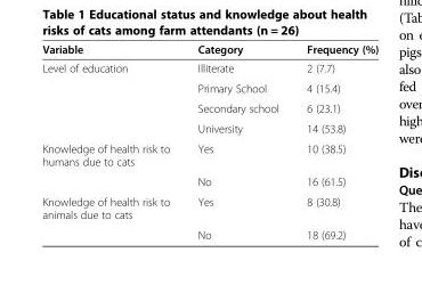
<table><thead><tr><td>Variable</td><td>Category</td><td>Frequency (%)</td></tr></thead><tbody><tr><td rowspan="4">Level of education</td><td>Illiterate</td><td>2 (7.7)</td></tr><tr><td>Primary School</td><td>4 (15.4)</td></tr><tr><td>Secondary school</td><td>6 (23.1)</td></tr><tr><td>University</td><td>14 (53.8)</td></tr><tr><td rowspan="2">Knowledge of health risk to humans due to cats</td><td>Yes</td><td>10 (38.5)</td></tr><tr><td>No</td><td>16 (61.5)</td></tr><tr><td rowspan="2">Knowledge of health risk to animals due to cats</td><td>Yes</td><td>8 (30.8)</td></tr><tr><td>No</td><td>18 (69.2)</td></tr></tbody></table>